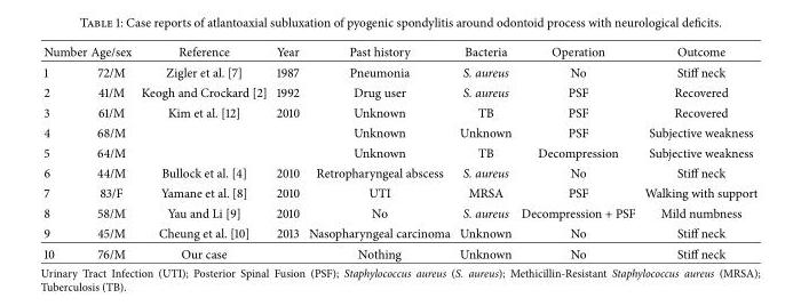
<table><thead><tr><td>Number</td><td>Age/sex</td><td>Reference</td><td>Year</td><td>Past history</td><td>Bacteria</td><td>Operation</td><td>Outcome</td></tr></thead><tbody><tr><td>1</td><td>72/M</td><td>Zigler et al. [7]</td><td>1987</td><td>Pneumonia</td><td>S. aureus</td><td>No</td><td>Stiff neck</td></tr><tr><td>2</td><td>41/M</td><td>Keogh and Crockard [2]</td><td>1992</td><td>Drug user</td><td>S. aureus</td><td>PSF</td><td>Recovered</td></tr><tr><td>3</td><td>61/M</td><td>Kim et al. [12]</td><td>2010</td><td>Unknown</td><td>TB</td><td>PSF</td><td>Recovered</td></tr><tr><td>4</td><td>68/M</td><td></td><td></td><td>Unknown</td><td>Unknown</td><td>PSF</td><td>Subjective weakness</td></tr><tr><td>5</td><td>64/M</td><td></td><td></td><td>Unknown</td><td>TB</td><td>Decompression</td><td>Subjective weakness</td></tr><tr><td>6</td><td>44/M</td><td>Bullock et al. [4]</td><td>2010</td><td>Retropharyngeal abscess</td><td>S. aureus</td><td>No</td><td>Stiff neck</td></tr><tr><td>7</td><td>83/F</td><td>Yamane et al. [8]</td><td>2010</td><td>UTI</td><td>MRSA</td><td>PSF</td><td>Walking with support</td></tr><tr><td>8</td><td>58/M</td><td>Yau and Li [9]</td><td>2010</td><td>No</td><td>S. aureus</td><td>Decompression + PSF</td><td>Mild numbness</td></tr><tr><td>9</td><td>45/M</td><td>Cheung et al. [10]</td><td>2013</td><td>Nasopharyngeal carcinoma</td><td>Unknown</td><td>No</td><td>Stiff neck</td></tr><tr><td>10</td><td>76/M</td><td>Our case</td><td></td><td>Nothing</td><td>Unknown</td><td>No</td><td>Stiff neck</td></tr></tbody></table>